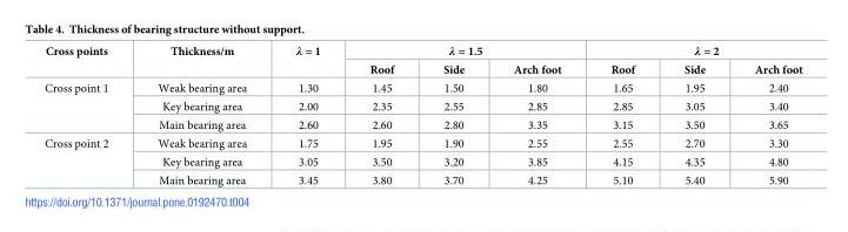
<table><thead><tr><td rowspan="2">Cross points</td><td rowspan="2">Thickness/m</td><td rowspan="2">λ = 1</td><td colspan="3">λ = 1.5</td><td colspan="3">λ = 2</td></tr><tr><td>Roof</td><td>Side</td><td>Arch foot</td><td>Roof</td><td>Side</td><td>Arch foot</td></tr></thead><tbody><tr><td rowspan="3">Cross point 1</td><td>Weak bearing area</td><td>1.30</td><td>1.45</td><td>1.50</td><td>1.80</td><td>1.65</td><td>1.95</td><td>2.40</td></tr><tr><td>Key bearing area</td><td>2.00</td><td>2.35</td><td>2.55</td><td>2.85</td><td>2.85</td><td>3.05</td><td>3.40</td></tr><tr><td>Main bearing area</td><td>2.60</td><td>2.60</td><td>2.80</td><td>3.35</td><td>3.15</td><td>3.50</td><td>3.65</td></tr><tr><td rowspan="3">Cross point 2</td><td>Weak bearing area</td><td>1.75</td><td>1.95</td><td>1.90</td><td>2.55</td><td>2.55</td><td>2.70</td><td>3.30</td></tr><tr><td>Key bearing area</td><td>3.05</td><td>3.50</td><td>3.20</td><td>3.85</td><td>4.15</td><td>4.35</td><td>4.80</td></tr><tr><td>Main bearing area</td><td>3.45</td><td>3.80</td><td>3.70</td><td>4.25</td><td>5.10</td><td>5.40</td><td>5.90</td></tr></tbody></table>